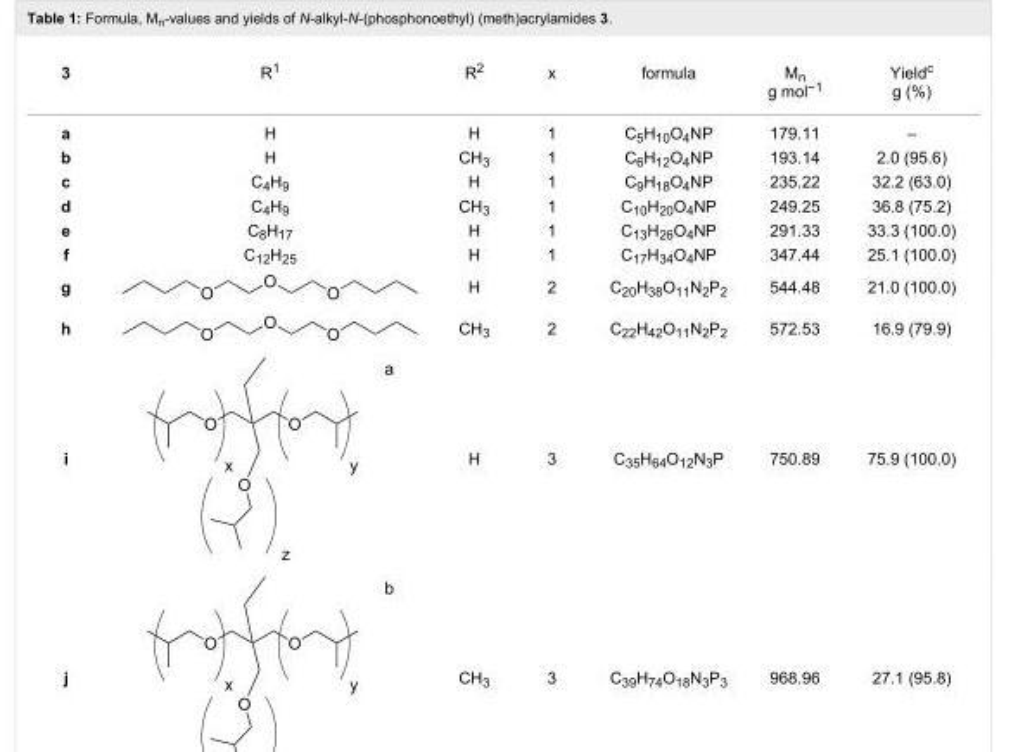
<table><tbody><tr><td>3</td><td>R<sup>1</sup></td><td>R<sup>2</sup></td><td>x</td><td>formula</td><td>M<sub>n</sub> g mol<sup>−1</sup></td><td>Yield<sup>c</sup> g (%)</td></tr><tr><td>a</td><td>H</td><td>H</td><td>1</td><td>C<sub>5</sub>H<sub>10</sub>O<sub>4</sub>NP</td><td>179.11</td><td>–</td></tr><tr><td>b</td><td>H</td><td>CH<sub>3</sub></td><td>1</td><td>C<sub>6</sub>H<sub>12</sub>O<sub>4</sub>NP</td><td>193.14</td><td>2.0 (95.6)</td></tr><tr><td>c</td><td>C<sub>4</sub>H<sub>9</sub></td><td>H</td><td>1</td><td>C<sub>9</sub>H<sub>18</sub>O<sub>4</sub>NP</td><td>235.22</td><td>32.2 (63.0)</td></tr><tr><td>d</td><td>C<sub>4</sub>H<sub>9</sub></td><td>CH<sub>3</sub></td><td>1</td><td>C<sub>10</sub>H<sub>20</sub>O<sub>4</sub>NP</td><td>249.25</td><td>36.8 (75.2)</td></tr><tr><td>e</td><td>C<sub>8</sub>H<sub>17</sub></td><td>H</td><td>1</td><td>C<sub>13</sub>H<sub>26</sub>O<sub>4</sub>NP</td><td>291.33</td><td>33.3 (100.0)</td></tr><tr><td>f</td><td>C<sub>12</sub>H<sub>25</sub></td><td>H</td><td>1</td><td>C<sub>17</sub>H<sub>34</sub>O<sub>4</sub>NP</td><td>347.44</td><td>25.1 (100.0)</td></tr><tr><td>g</td><td></td><td>H</td><td>2</td><td>C<sub>20</sub>H<sub>38</sub>O<sub>11</sub>N<sub>2</sub>P<sub>2</sub></td><td>544.48</td><td>21.0 (100.0)</td></tr><tr><td>h</td><td></td><td>CH<sub>3</sub></td><td>2</td><td>C<sub>22</sub>H<sub>42</sub>O<sub>11</sub>N<sub>2</sub>P<sub>2</sub></td><td>572.53</td><td>16.9 (79.9)</td></tr><tr><td>i</td><td></td><td>H</td><td>3</td><td>C<sub>35</sub>H<sub>64</sub>O<sub>12</sub>N<sub>3</sub>P</td><td>750.89</td><td>75.9 (100.0)</td></tr><tr><td>j</td><td></td><td>CH<sub>3</sub></td><td>3</td><td>C<sub>39</sub>H<sub>74</sub>O<sub>18</sub>N<sub>3</sub>P<sub>3</sub></td><td>968.96</td><td>27.1 (95.8)</td></tr></tbody></table>